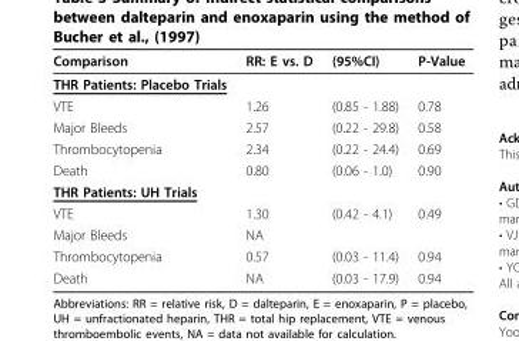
<table><thead><tr><td>Comparison</td><td>RR: E vs. D</td><td>(95%CI)</td><td>P-Value</td></tr></thead><tbody><tr><td colspan="4">THR Patients: Placebo Trials</td></tr><tr><td>VTE</td><td>1.26</td><td>(0.85 - 1.88)</td><td>0.78</td></tr><tr><td>Major Bleeds</td><td>2.57</td><td>(0.22 - 29.8)</td><td>0.58</td></tr><tr><td>Thrombocytopenia</td><td>2.34</td><td>(0.22 - 24.4)</td><td>0.69</td></tr><tr><td>Death</td><td>0.80</td><td>(0.06 - 1.0)</td><td>0.90</td></tr><tr><td colspan="4">THR Patients: UH Trials</td></tr><tr><td>VTE</td><td>1.30</td><td>(0.42 - 4.1)</td><td>0.49</td></tr><tr><td>Major Bleeds</td><td>NA</td><td></td><td></td></tr><tr><td>Thrombocytopenia</td><td>0.57</td><td>(0.03 - 11.4)</td><td>0.94</td></tr><tr><td>Death</td><td>NA</td><td>(0.03 - 17.9)</td><td>0.94</td></tr></tbody></table>